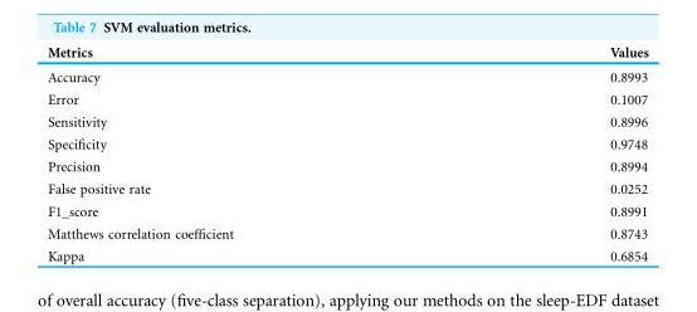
<table><thead><tr><td>Metrics</td><td>Values</td></tr></thead><tbody><tr><td>Accuracy</td><td>0.8993</td></tr><tr><td>Error</td><td>0.1007</td></tr><tr><td>Sensitivity</td><td>0.8996</td></tr><tr><td>Specificity</td><td>0.9748</td></tr><tr><td>Precision</td><td>0.8994</td></tr><tr><td>False positive rate</td><td>0.0252</td></tr><tr><td>F1_score</td><td>0.8991</td></tr><tr><td>Matthews correlation coefficient</td><td>0.8743</td></tr><tr><td>Kappa</td><td>0.6854</td></tr></tbody></table>